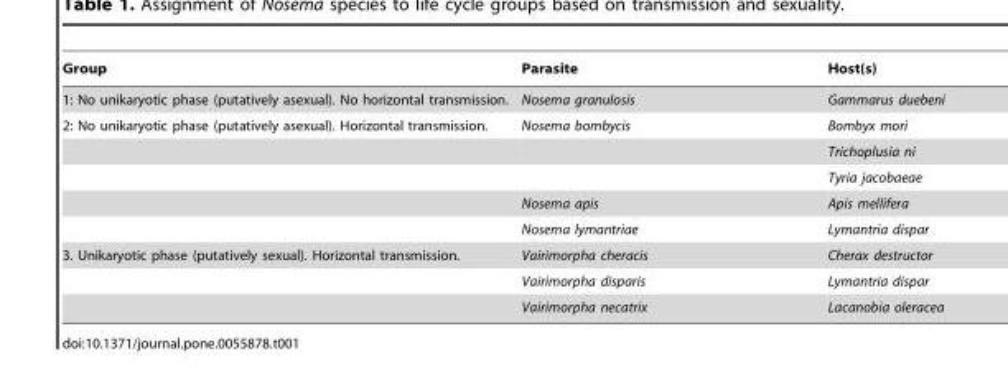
<table><thead><tr><td>Group</td><td>Parasite</td><td>Host(s)</td></tr></thead><tbody><tr><td>1: No unikaryotic phase (putatively asexual). No horizontal transmission.</td><td>Nosema granulosis</td><td>Gammarus duebeni</td></tr><tr><td rowspan="5">2: No unikaryotic phase (putatively asexual). Horizontal transmission.</td><td>Nosema bombycis</td><td>Bombyx mori</td></tr><tr><td></td><td>Trichoplusia ni</td></tr><tr><td></td><td>Tyria jacobaeae</td></tr><tr><td>Nosema apis</td><td>Apis mellifera</td></tr><tr><td>Nosema lymantriae</td><td>Lymantria dispar</td></tr><tr><td rowspan="3">3. Unikaryotic phase (putatively sexual). Horizontal transmission.</td><td>Vairimorpha cheracis</td><td>Cherax destructor</td></tr><tr><td>Vairimorpha disparis</td><td>Lymantria dispar</td></tr><tr><td>Vairimorpha necatrix</td><td>Lacanobia oleracea</td></tr></tbody></table>